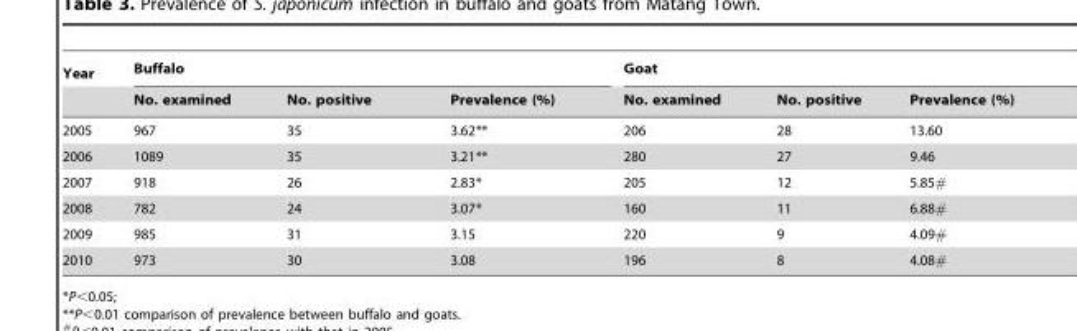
<table><thead><tr><td rowspan="2">Year</td><td colspan="3">Buffalo</td><td colspan="3">Goat</td></tr><tr><td>No. examined</td><td>No. positive</td><td>Prevalence (%)</td><td>No. examined</td><td>No. positive</td><td>Prevalence (%)</td></tr></thead><tbody><tr><td>2005</td><td>967</td><td>35</td><td>3.62**</td><td>206</td><td>28</td><td>13.60</td></tr><tr><td>2006</td><td>1089</td><td>35</td><td>3.21**</td><td>280</td><td>27</td><td>9.46</td></tr><tr><td>2007</td><td>918</td><td>26</td><td>2.83*</td><td>205</td><td>12</td><td>5.85#</td></tr><tr><td>2008</td><td>782</td><td>24</td><td>3.07*</td><td>160</td><td>11</td><td>6.88#</td></tr><tr><td>2009</td><td>985</td><td>31</td><td>3.15</td><td>220</td><td>9</td><td>4.09#</td></tr><tr><td>2010</td><td>973</td><td>30</td><td>3.08</td><td>196</td><td>8</td><td>4.08#</td></tr></tbody></table>